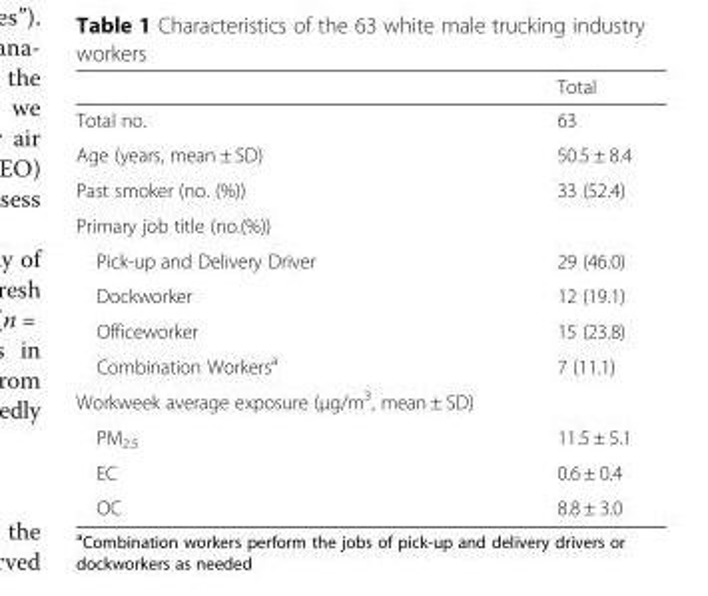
<table><thead><tr><td></td><td>Total</td></tr></thead><tbody><tr><td>Total no.</td><td>63</td></tr><tr><td>Age (years, mean ± SD)</td><td>50.5 ± 8.4</td></tr><tr><td>Past smoker (no. (%))</td><td>33 (52.4)</td></tr><tr><td colspan="2">Primary job title (no.(%))</td></tr><tr><td>Pick-up and Delivery Driver</td><td>29 (46.0)</td></tr><tr><td>Dockworker</td><td>12 (19.1)</td></tr><tr><td>Officeworker</td><td>15 (23.8)</td></tr><tr><td>Combination Workers<sup>a</sup></td><td>7 (11.1)</td></tr><tr><td colspan="2">Workweek average exposure (μg/m<sup>3</sup>, mean ± SD)</td></tr><tr><td>PM<sub>2.5</sub></td><td>11.5 ± 5.1</td></tr><tr><td>EC</td><td>0.6 ± 0.4</td></tr><tr><td>OC</td><td>8.8 ± 3.0</td></tr></tbody></table>